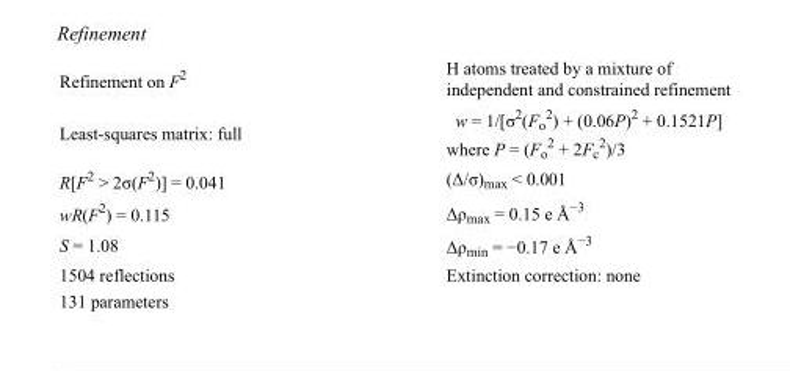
<table><tbody><tr><td>Refinement on F<sup>2</sup></td><td>H atoms treated by a mixture of independent and constrained refinement</td></tr><tr><td>Least-squares matrix: full</td><td>w = 1/[σ<sup>2</sup>(F<sub>o</sub> <sup>2</sup>) + (0.06P)<sup>2</sup> + 0.1521P] where P = (F<sub>o</sub> <sup>2</sup> + 2F<sub>c</sub> <sup>2</sup>)/3</td></tr><tr><td>R[F<sup>2</sup> &gt; 2σ(F<sup>2</sup>)] = 0.041</td><td>(Δ/σ)<sub>max</sub> &lt; 0.001</td></tr><tr><td>wR(F<sup>2</sup>) = 0.115</td><td>Δρ<sub>max</sub> = 0.15 e Å<sup>−3</sup></td></tr><tr><td>S = 1.08</td><td>Δρ<sub>min</sub> = −0.17 e Å<sup>−3</sup></td></tr><tr><td>1504 reflections</td><td>Extinction correction: none</td></tr><tr><td>131 parameters</td><td></td></tr></tbody></table>